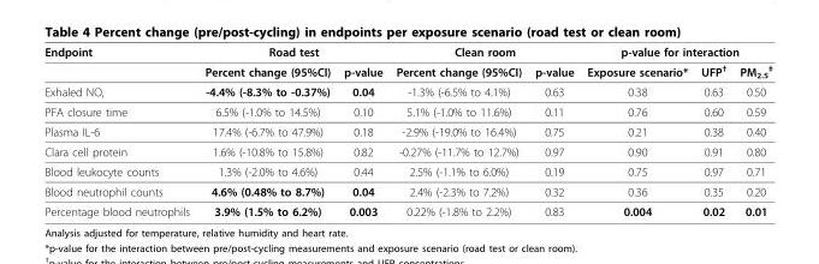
<table><thead><tr><td rowspan="2">Endpoint</td><td colspan="2">Road test</td><td colspan="2">Clean room</td><td colspan="3">p-value for interaction</td></tr><tr><td>Percent change (95%CI)</td><td>p-value</td><td>Percent change (95%CI)</td><td>p-value</td><td>Exposure scenario*</td><td>UFP<sup>†</sup></td><td>PM<sub>2.5</sub> <sup>‡</sup></td></tr></thead><tbody><tr><td>Exhaled NO,</td><td>-4.4% (-8.3% to -0.37%)</td><td>0.04</td><td>-1.3% (-6.5% to 4.1%)</td><td>0.63</td><td>0.38</td><td>0.63</td><td>0.50</td></tr><tr><td>PFA closure time</td><td>6.5% (-1.0% to 14.5%)</td><td>0.10</td><td>5.1% (-1.0% to 11.6%)</td><td>0.11</td><td>0.76</td><td>0.60</td><td>0.59</td></tr><tr><td>Plasma IL-6</td><td>17.4% (-6.7% to 47.9%)</td><td>0.18</td><td>-2.9% (-19.0% to 16.4%)</td><td>0.75</td><td>0.21</td><td>0.38</td><td>0.40</td></tr><tr><td>Clara cell protein</td><td>1.6% (-10.8% to 15.8%)</td><td>0.82</td><td>-0.27% (-11.7% to 12.7%)</td><td>0.97</td><td>0.90</td><td>0.91</td><td>0.80</td></tr><tr><td>Blood leukocyte counts</td><td>1.3% (-2.0% to 4.6%)</td><td>0.44</td><td>2.5% (-1.1% to 6.0%)</td><td>0.19</td><td>0.75</td><td>0.97</td><td>0.71</td></tr><tr><td>Blood neutrophil counts</td><td>4.6% (0.48% to 8.7%)</td><td>0.04</td><td>2.4% (-2.3% to 7.2%)</td><td>0.32</td><td>0.36</td><td>0.35</td><td>0.20</td></tr><tr><td>Percentage blood neutrophils</td><td>3.9% (1.5% to 6.2%)</td><td>0.003</td><td>0.22% (-1.8% to 2.2%)</td><td>0.83</td><td>0.004</td><td>0.02</td><td>0.01</td></tr></tbody></table>